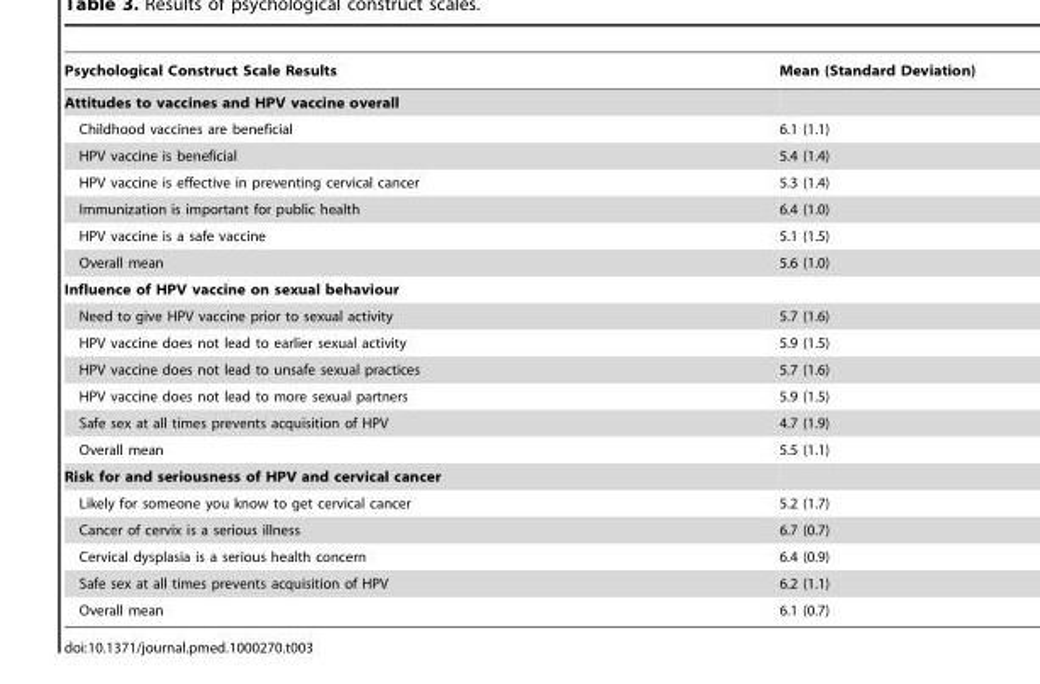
<table><thead><tr><td>Psychological Construct Scale Results</td><td>Mean (Standard Deviation)</td></tr></thead><tbody><tr><td colspan="2">Attitudes to vaccines and HPV vaccine overall</td></tr><tr><td>Childhood vaccines are beneficial</td><td>6.1 (1.1)</td></tr><tr><td>HPV vaccine is beneficial</td><td>5.4 (1.4)</td></tr><tr><td>HPV vaccine is effective in preventing cervical cancer</td><td>5.3 (1.4)</td></tr><tr><td>Immunization is important for public health</td><td>6.4 (1.0)</td></tr><tr><td>HPV vaccine is a safe vaccine</td><td>5.1 (1.5)</td></tr><tr><td>Overall mean</td><td>5.6 (1.0)</td></tr><tr><td colspan="2">Influence of HPV vaccine on sexual behaviour</td></tr><tr><td>Need to give HPV vaccine prior to sexual activity</td><td>5.7 (1.6)</td></tr><tr><td>HPV vaccine does not lead to earlier sexual activity</td><td>5.9 (1.5)</td></tr><tr><td>HPV vaccine does not lead to unsafe sexual practices</td><td>5.7 (1.6)</td></tr><tr><td>HPV vaccine does not lead to more sexual partners</td><td>5.9 (1.5)</td></tr><tr><td>Safe sex at all times prevents acquisition of HPV</td><td>4.7 (1.9)</td></tr><tr><td>Overall mean</td><td>5.5 (1.1)</td></tr><tr><td colspan="2">Risk for and seriousness of HPV and cervical cancer</td></tr><tr><td>Likely for someone you know to get cervical cancer</td><td>5.2 (1.7)</td></tr><tr><td>Cancer of cervix is a serious illness</td><td>6.7 (0.7)</td></tr><tr><td>Cervical dysplasia is a serious health concern</td><td>6.4 (0.9)</td></tr><tr><td>Safe sex at all times prevents acquisition of HPV</td><td>6.2 (1.1)</td></tr><tr><td>Overall mean</td><td>6.1 (0.7)</td></tr></tbody></table>